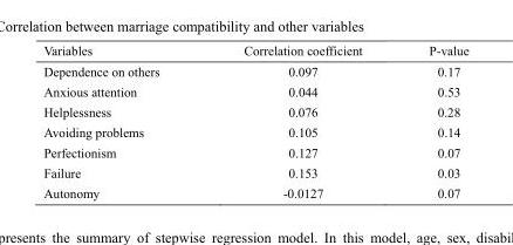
<table><thead><tr><td>Variables</td><td>Correlation coefficient</td><td>P-value</td></tr></thead><tbody><tr><td>Dependence on others</td><td>0.097</td><td>0.17</td></tr><tr><td>Anxious attention</td><td>0.044</td><td>0.53</td></tr><tr><td>Helplessness</td><td>0.076</td><td>0.28</td></tr><tr><td>Avoiding problems</td><td>0.105</td><td>0.14</td></tr><tr><td>Perfectionism</td><td>0.127</td><td>0.07</td></tr><tr><td>Failure</td><td>0.153</td><td>0.03</td></tr><tr><td>Autonomy</td><td>-0.0127</td><td>0.07</td></tr></tbody></table>